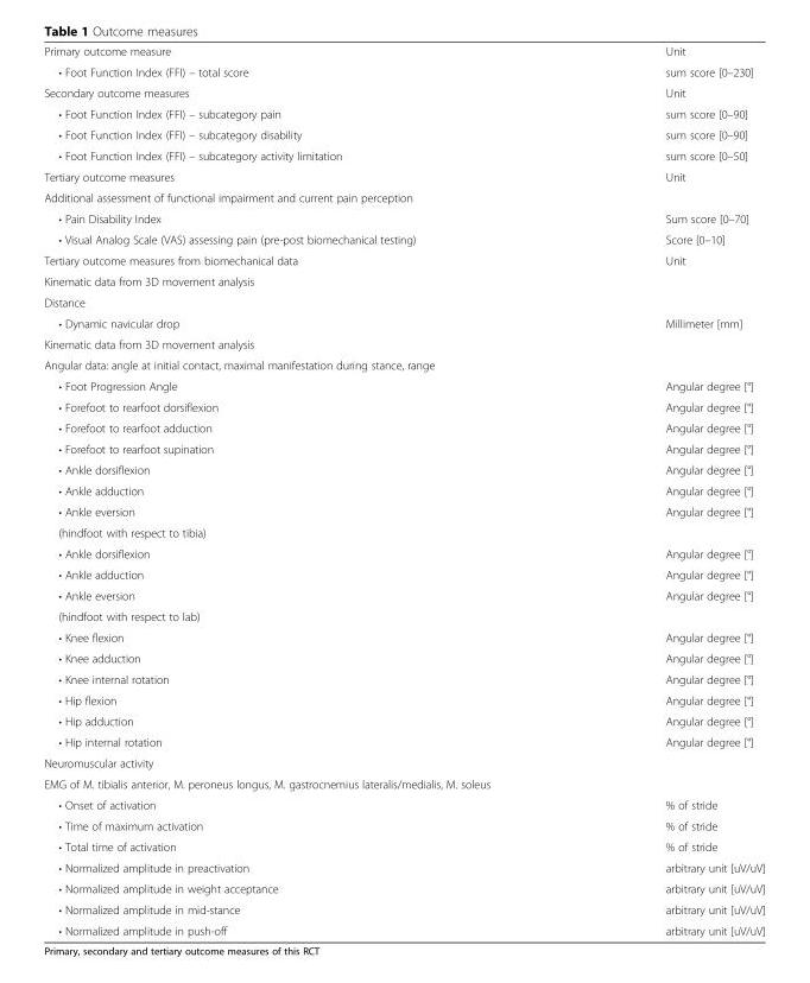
<table><tbody><tr><td>Primary outcome measure</td><td>Unit</td></tr><tr><td>• Foot Function Index (FFI) – total score</td><td>sum score [0–230]</td></tr><tr><td>Secondary outcome measures</td><td>Unit</td></tr><tr><td>• Foot Function Index (FFI) – subcategory pain</td><td>sum score [0–90]</td></tr><tr><td>• Foot Function Index (FFI) – subcategory disability</td><td>sum score [0–90]</td></tr><tr><td>• Foot Function Index (FFI) – subcategory activity limitation</td><td>sum score [0–50]</td></tr><tr><td>Tertiary outcome measures</td><td>Unit</td></tr><tr><td colspan="2">Additional assessment of functional impairment and current pain perception</td></tr><tr><td>• Pain Disability Index</td><td>Sum score [0–70]</td></tr><tr><td>• Visual Analog Scale (VAS) assessing pain (pre-post biomechanical testing)</td><td>Score [0–10]</td></tr><tr><td>Tertiary outcome measures from biomechanical data</td><td>Unit</td></tr><tr><td>Kinematic data from 3D movement analysis</td><td rowspan="2"></td></tr><tr><td>Distance</td></tr><tr><td>• Dynamic navicular drop</td><td>Millimeter [mm]</td></tr><tr><td>Kinematic data from 3D movement analysis</td><td rowspan="2"></td></tr><tr><td>Angular data: angle at initial contact, maximal manifestation during stance, range</td></tr><tr><td>• Foot Progression Angle</td><td>Angular degree [°]</td></tr><tr><td>• Forefoot to rearfoot dorsiflexion</td><td>Angular degree [°]</td></tr><tr><td>• Forefoot to rearfoot adduction</td><td>Angular degree [°]</td></tr><tr><td>• Forefoot to rearfoot supination</td><td>Angular degree [°]</td></tr><tr><td>• Ankle dorsiflexion</td><td>Angular degree [°]</td></tr><tr><td>• Ankle adduction</td><td>Angular degree [°]</td></tr><tr><td>• Ankle eversion</td><td rowspan="2">Angular degree [°]</td></tr><tr><td>(hindfoot with respect to tibia)</td></tr><tr><td>• Ankle dorsiflexion</td><td>Angular degree [°]</td></tr><tr><td>• Ankle adduction</td><td>Angular degree [°]</td></tr><tr><td>• Ankle eversion</td><td rowspan="2">Angular degree [°]</td></tr><tr><td>(hindfoot with respect to lab)</td></tr><tr><td>• Knee flexion</td><td>Angular degree [°]</td></tr><tr><td>• Knee adduction</td><td>Angular degree [°]</td></tr><tr><td>• Knee internal rotation</td><td>Angular degree [°]</td></tr><tr><td>• Hip flexion</td><td>Angular degree [°]</td></tr><tr><td>• Hip adduction</td><td>Angular degree [°]</td></tr><tr><td>• Hip internal rotation</td><td>Angular degree [°]</td></tr><tr><td>Neuromuscular activity</td><td rowspan="2"></td></tr><tr><td>EMG of M. tibialis anterior, M. peroneus longus, M. gastrocnemius lateralis/medialis, M. soleus</td></tr><tr><td>• Onset of activation</td><td>% of stride</td></tr><tr><td>• Time of maximum activation</td><td>% of stride</td></tr><tr><td>• Total time of activation</td><td>% of stride</td></tr><tr><td>• Normalized amplitude in preactivation</td><td>arbitrary unit [uV/uV]</td></tr><tr><td>• Normalized amplitude in weight acceptance</td><td>arbitrary unit [uV/uV]</td></tr><tr><td>• Normalized amplitude in mid-stance</td><td>arbitrary unit [uV/uV]</td></tr><tr><td>• Normalized amplitude in push-off</td><td>arbitrary unit [uV/uV]</td></tr></tbody></table>